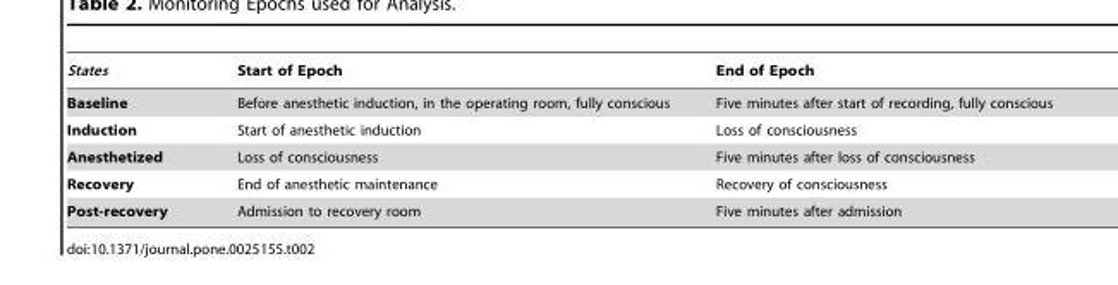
<table><thead><tr><td>States</td><td>Start of Epoch</td><td>End of Epoch</td></tr></thead><tbody><tr><td>Baseline</td><td>Before anesthetic induction, in the operating room, fully conscious</td><td>Five minutes after start of recording, fully conscious</td></tr><tr><td>Induction</td><td>Start of anesthetic induction</td><td>Loss of consciousness</td></tr><tr><td>Anesthetized</td><td>Loss of consciousness</td><td>Five minutes after loss of consciousness</td></tr><tr><td>Recovery</td><td>End of anesthetic maintenance</td><td>Recovery of consciousness</td></tr><tr><td>Post-recovery</td><td>Admission to recovery room</td><td>Five minutes after admission</td></tr></tbody></table>